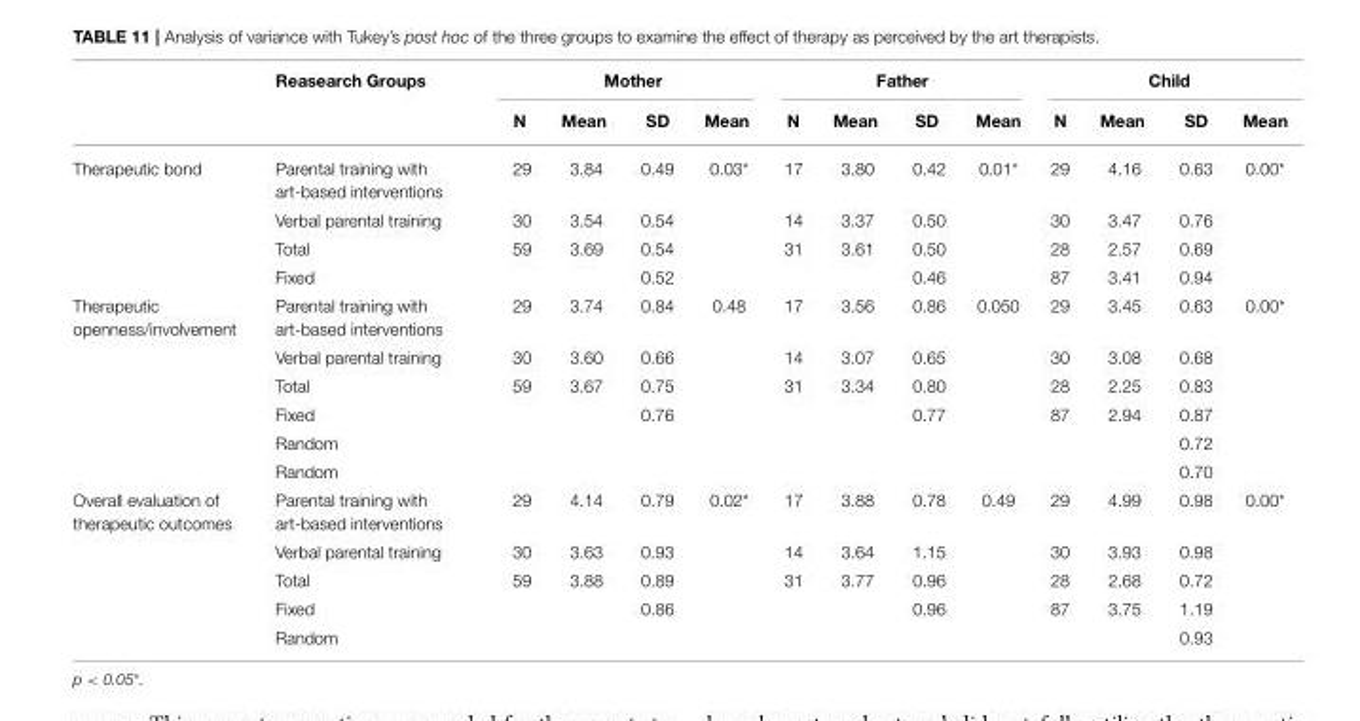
<table><thead><tr><td rowspan="2"></td><td rowspan="2">Reasearch Groups</td><td colspan="4">Mother</td><td colspan="4">Father</td><td colspan="4">Child</td></tr><tr><td>N</td><td>Mean</td><td>SD</td><td>Mean</td><td>N</td><td>Mean</td><td>SD</td><td>Mean</td><td>N</td><td>Mean</td><td>SD</td><td>Mean</td></tr></thead><tbody><tr><td rowspan="4">Therapeutic bond</td><td>Parental training with art-based interventions</td><td>29</td><td>3.84</td><td>0.49</td><td>0.03*</td><td>17</td><td>3.80</td><td>0.42</td><td>0.01*</td><td>29</td><td>4.16</td><td>0.63</td><td>0.00*</td></tr><tr><td>Verbal parental training</td><td>30</td><td>3.54</td><td>0.54</td><td></td><td>14</td><td>3.37</td><td>0.50</td><td></td><td>30</td><td>3.47</td><td>0.76</td><td></td></tr><tr><td>Total</td><td>59</td><td>3.69</td><td>0.54</td><td></td><td>31</td><td>3.61</td><td>0.50</td><td></td><td>28</td><td>2.57</td><td>0.69</td><td></td></tr><tr><td>Fixed</td><td></td><td></td><td>0.52</td><td></td><td></td><td></td><td>0.46</td><td></td><td>87</td><td>3.41</td><td>0.94</td><td></td></tr><tr><td rowspan="6">Therapeutic openness/involvement</td><td>Parental training with art-based interventions</td><td>29</td><td>3.74</td><td>0.84</td><td>0.48</td><td>17</td><td>3.56</td><td>0.86</td><td>0.050</td><td>29</td><td>3.45</td><td>0.63</td><td>0.00*</td></tr><tr><td>Verbal parental training</td><td>30</td><td>3.60</td><td>0.66</td><td></td><td>14</td><td>3.07</td><td>0.65</td><td></td><td>30</td><td>3.08</td><td>0.68</td><td></td></tr><tr><td>Total</td><td>59</td><td>3.67</td><td>0.75</td><td></td><td>31</td><td>3.34</td><td>0.80</td><td></td><td>28</td><td>2.25</td><td>0.83</td><td></td></tr><tr><td>Fixed</td><td></td><td></td><td>0.76</td><td></td><td></td><td></td><td>0.77</td><td></td><td>87</td><td>2.94</td><td>0.87</td><td></td></tr><tr><td>Random</td><td></td><td></td><td></td><td></td><td></td><td></td><td></td><td></td><td></td><td></td><td>0.72</td><td></td></tr><tr><td>Random</td><td></td><td></td><td></td><td></td><td></td><td></td><td></td><td></td><td></td><td></td><td>0.70</td><td></td></tr><tr><td rowspan="5">Overall evaluation of therapeutic outcomes</td><td>Parental training with art-based interventions</td><td>29</td><td>4.14</td><td>0.79</td><td>0.02*</td><td>17</td><td>3.88</td><td>0.78</td><td>0.49</td><td>29</td><td>4.99</td><td>0.98</td><td>0.00*</td></tr><tr><td>Verbal parental training</td><td>30</td><td>3.63</td><td>0.93</td><td></td><td>14</td><td>3.64</td><td>1.15</td><td></td><td>30</td><td>3.93</td><td>0.98</td><td></td></tr><tr><td>Total</td><td>59</td><td>3.88</td><td>0.89</td><td></td><td>31</td><td>3.77</td><td>0.96</td><td></td><td>28</td><td>2.68</td><td>0.72</td><td></td></tr><tr><td>Fixed</td><td></td><td></td><td>0.86</td><td></td><td></td><td></td><td>0.96</td><td></td><td>87</td><td>3.75</td><td>1.19</td><td></td></tr><tr><td>Random</td><td></td><td></td><td></td><td></td><td></td><td></td><td></td><td></td><td></td><td></td><td>0.93</td><td></td></tr></tbody></table>